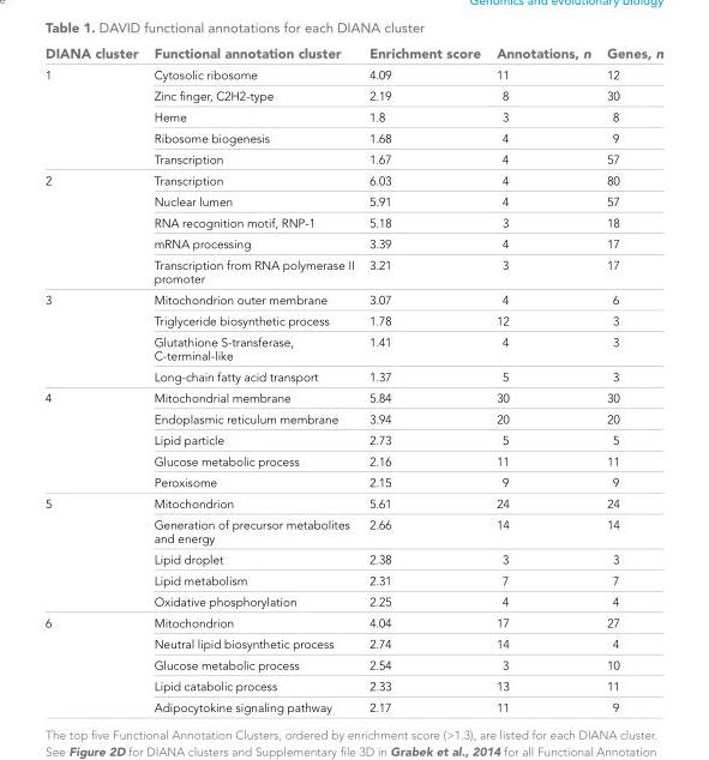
<table><thead><tr><td>DIANA cluster</td><td>Functional annotation cluster</td><td>Enrichment score</td><td>Annotations, n</td><td>Genes, n</td></tr></thead><tbody><tr><td rowspan="5">1</td><td>Cytosolic ribosome</td><td>4.09</td><td>11</td><td>12</td></tr><tr><td>Zinc finger, C2H2-type</td><td>2.19</td><td>8</td><td>30</td></tr><tr><td>Heme</td><td>1.8</td><td>3</td><td>8</td></tr><tr><td>Ribosome biogenesis</td><td>1.68</td><td>4</td><td>9</td></tr><tr><td>Transcription</td><td>1.67</td><td>4</td><td>57</td></tr><tr><td rowspan="5">2</td><td>Transcription</td><td>6.03</td><td>4</td><td>80</td></tr><tr><td>Nuclear lumen</td><td>5.91</td><td>4</td><td>57</td></tr><tr><td>RNA recognition motif, RNP-1</td><td>5.18</td><td>3</td><td>18</td></tr><tr><td>mRNA processing</td><td>3.39</td><td>4</td><td>17</td></tr><tr><td>Transcription from RNA polymerase II promoter</td><td>3.21</td><td>3</td><td>17</td></tr><tr><td rowspan="4">3</td><td>Mitochondrion outer membrane</td><td>3.07</td><td>4</td><td>6</td></tr><tr><td>Triglyceride biosynthetic process</td><td>1.78</td><td>12</td><td>3</td></tr><tr><td>Glutathione S-transferase, C-terminal-like</td><td>1.41</td><td>4</td><td>3</td></tr><tr><td>Long-chain fatty acid transport</td><td>1.37</td><td>5</td><td>3</td></tr><tr><td rowspan="5">4</td><td>Mitochondrial membrane</td><td>5.84</td><td>30</td><td>30</td></tr><tr><td>Endoplasmic reticulum membrane</td><td>3.94</td><td>20</td><td>20</td></tr><tr><td>Lipid particle</td><td>2.73</td><td>5</td><td>5</td></tr><tr><td>Glucose metabolic process</td><td>2.16</td><td>11</td><td>11</td></tr><tr><td>Peroxisome</td><td>2.15</td><td>9</td><td>9</td></tr><tr><td rowspan="5">5</td><td>Mitochondrion</td><td>5.61</td><td>24</td><td>24</td></tr><tr><td>Generation of precursor metabolites and energy</td><td>2.66</td><td>14</td><td>14</td></tr><tr><td>Lipid droplet</td><td>2.38</td><td>3</td><td>3</td></tr><tr><td>Lipid metabolism</td><td>2.31</td><td>7</td><td>7</td></tr><tr><td>Oxidative phosphorylation</td><td>2.25</td><td>4</td><td>4</td></tr><tr><td rowspan="5">6</td><td>Mitochondrion</td><td>4.04</td><td>17</td><td>27</td></tr><tr><td>Neutral lipid biosynthetic process</td><td>2.74</td><td>14</td><td>4</td></tr><tr><td>Glucose metabolic process</td><td>2.54</td><td>3</td><td>10</td></tr><tr><td>Lipid catabolic process</td><td>2.33</td><td>13</td><td>11</td></tr><tr><td>Adipocytokine signaling pathway</td><td>2.17</td><td>11</td><td>9</td></tr></tbody></table>